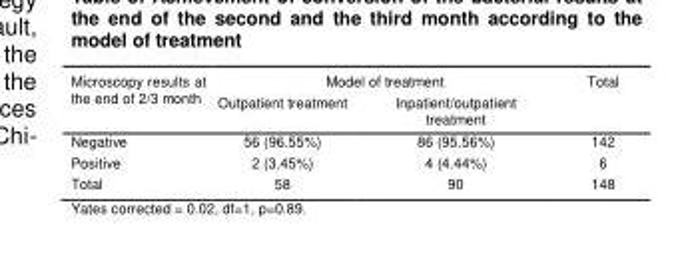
<table><thead><tr><td rowspan="2">Microscopy results at the end of 2/3 month</td><td colspan="2">Model of treatment</td><td rowspan="2">Total</td></tr><tr><td>Outpatient treatment</td><td>Inpatient/outpatient treatment</td></tr></thead><tbody><tr><td>Negative</td><td>56 (96.55%)</td><td>86 (95.56%)</td><td>142</td></tr><tr><td>Positive</td><td>2 (3.45%)</td><td>4 (4.44%)</td><td>6</td></tr><tr><td>Total</td><td>58</td><td>90</td><td>148</td></tr></tbody></table>